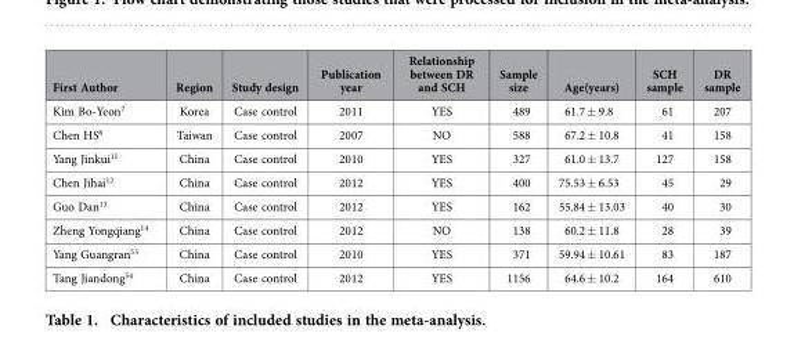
<table><thead><tr><td>First Author</td><td>Region</td><td>Study design</td><td>Publication year</td><td>Relationship between DR and SCH</td><td>Sample size</td><td>Age(years)</td><td>SCH sample</td><td>DR sample</td></tr></thead><tbody><tr><td>Kim Bo-Yeon<sup>7</sup></td><td>Korea</td><td>Case control</td><td>2011</td><td>YES</td><td>489</td><td>61.7 ± 9.8</td><td>61</td><td>207</td></tr><tr><td>Chen HS<sup>8</sup></td><td>Taiwan</td><td>Case control</td><td>2007</td><td>NO</td><td>588</td><td>67.2 ± 10.8</td><td>41</td><td>158</td></tr><tr><td>Yang Jinkui<sup>11</sup></td><td>China</td><td>Case control</td><td>2010</td><td>YES</td><td>327</td><td>61.0 ± 13.7</td><td>127</td><td>158</td></tr><tr><td>Chen Jihai<sup>12</sup></td><td>China</td><td>Case control</td><td>2012</td><td>YES</td><td>400</td><td>75.53 ± 6.53</td><td>45</td><td>29</td></tr><tr><td>Guo Dan<sup>13</sup></td><td>China</td><td>Case control</td><td>2012</td><td>YES</td><td>162</td><td>55.84 ± 13.03</td><td>40</td><td>30</td></tr><tr><td>Zheng Yongqiang<sup>14</sup></td><td>China</td><td>Case control</td><td>2012</td><td>NO</td><td>138</td><td>60.2 ± 11.8</td><td>28</td><td>39</td></tr><tr><td>Yang Guangran<sup>53</sup></td><td>China</td><td>Case control</td><td>2010</td><td>YES</td><td>371</td><td>59.94 ± 10.61</td><td>83</td><td>187</td></tr><tr><td>Tang Jiandong<sup>54</sup></td><td>China</td><td>Case control</td><td>2012</td><td>YES</td><td>1156</td><td>64.6 ± 10.2</td><td>164</td><td>610</td></tr></tbody></table>